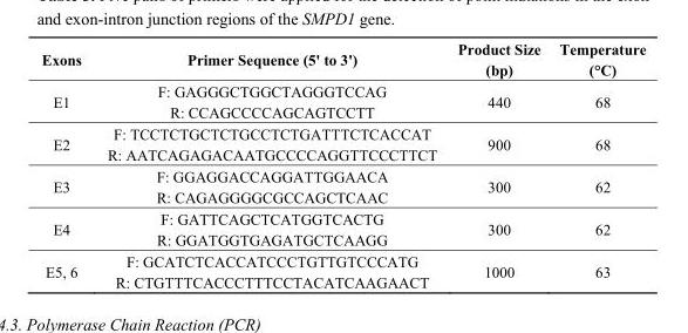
<table><thead><tr><td>Exons</td><td>Primer Sequence (5&#x27; to 3&#x27;)</td><td>Product Size (bp)</td><td>Temperature (°C)</td></tr></thead><tbody><tr><td rowspan="2">E1</td><td>F: GAGGGCTGGCTAGGGTCCAG</td><td rowspan="2">440</td><td rowspan="2">68</td></tr><tr><td>R: CCAGCCCCAGCAGTCCTT</td></tr><tr><td rowspan="2">E2</td><td>F: TCCTCTGCTCTGCCTCTGATTTCTCACCAT</td><td rowspan="2">900</td><td rowspan="2">68</td></tr><tr><td>R: AATCAGAGACAATGCCCCAGGTTCCCTTCT</td></tr><tr><td rowspan="2">E3</td><td>F: GGAGGACCAGGATTGGAACA</td><td rowspan="2">300</td><td rowspan="2">62</td></tr><tr><td>R: CAGAGGGGCGCCAGCTCAAC</td></tr><tr><td rowspan="2">E4</td><td>F: GATTCAGCTCATGGTCACTG</td><td rowspan="2">300</td><td rowspan="2">62</td></tr><tr><td>R: GGATGGTGAGATGCTCAAGG</td></tr><tr><td rowspan="2">E5, 6</td><td>F: GCATCTCACCATCCCTGTTGTCCCATG</td><td rowspan="2">1000</td><td rowspan="2">63</td></tr><tr><td>R: CTGTTTCACCCTTTCCTACATCAAGAACT</td></tr></tbody></table>